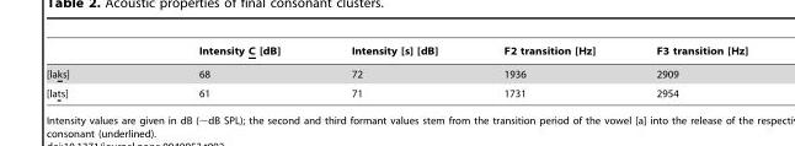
<table><thead><tr><td></td><td>Intensity C [dB]</td><td>Intensity [s] [dB]</td><td>F2 transition [Hz]</td><td>F3 transition [Hz]</td></tr></thead><tbody><tr><td>[laks]</td><td>68</td><td>72</td><td>1936</td><td>2909</td></tr><tr><td>[lats]</td><td>61</td><td>71</td><td>1731</td><td>2954</td></tr></tbody></table>